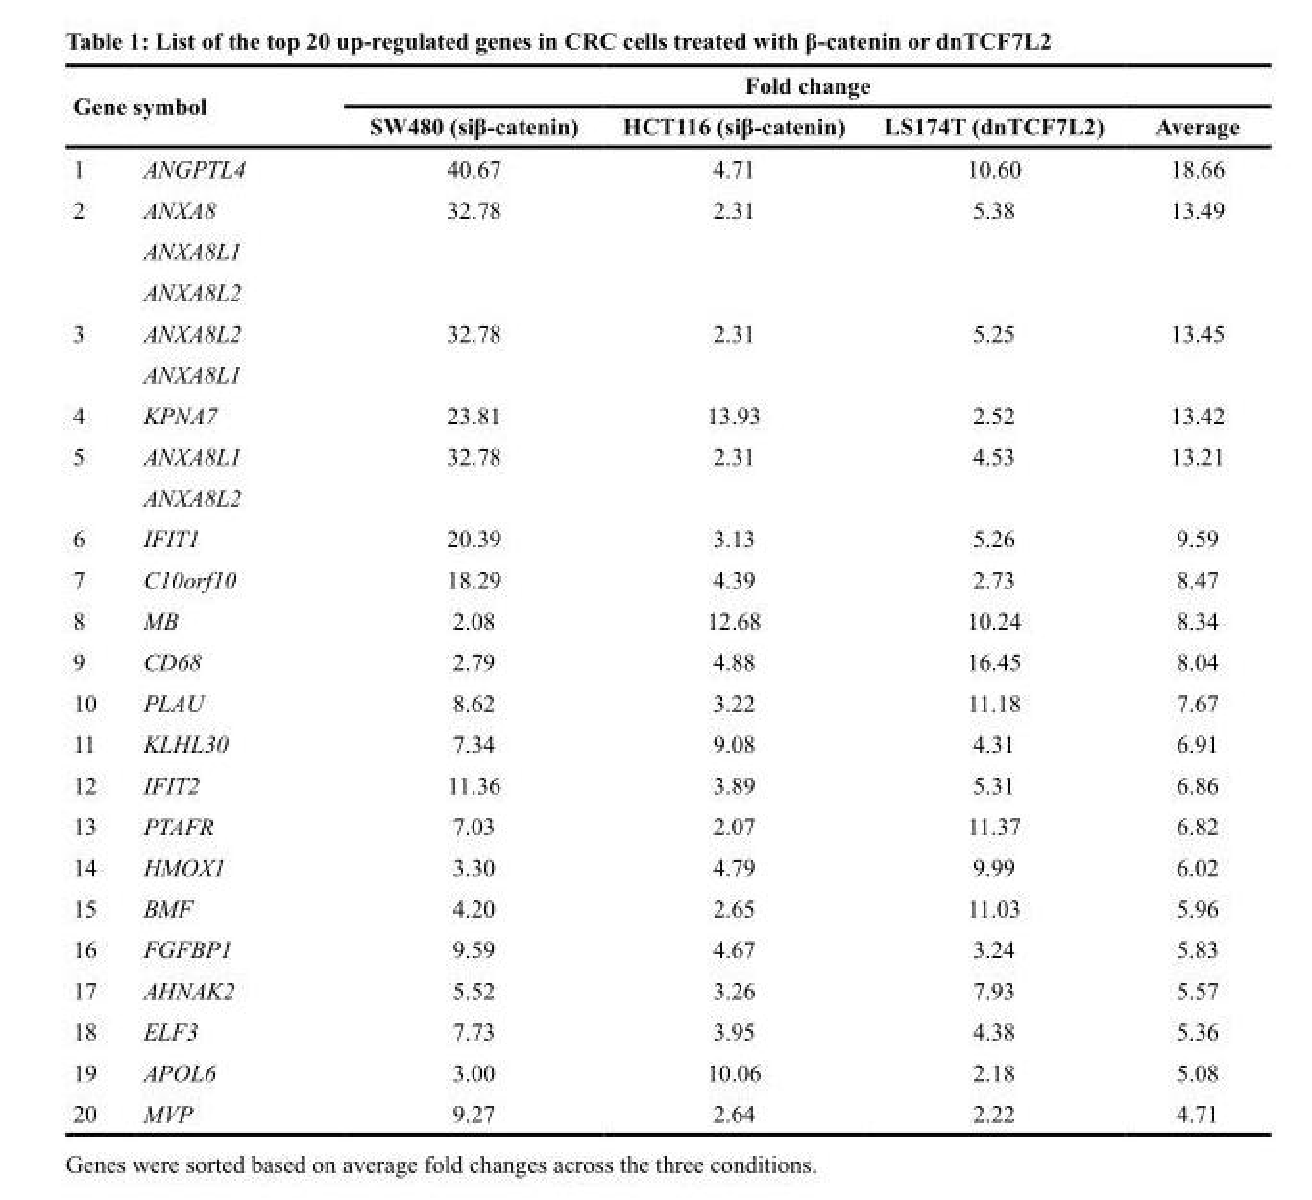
<table><thead><tr><td rowspan="2" colspan="2">Gene symbol</td><td colspan="4">Fold change</td></tr><tr><td rowspan="2">SW480 (siβ-catenin) 40.67</td><td rowspan="2">HCT116 (siβ-catenin) 4.71</td><td rowspan="2">LS174T (dnTCF7L2) 10.60</td><td rowspan="2">Average 18.66</td></tr><tr><td>1</td><td>ANGPTL4</td></tr></thead><tbody><tr><td rowspan="3">2</td><td>ANXA8</td><td>32.78</td><td>2.31</td><td>5.38</td><td>13.49</td></tr><tr><td>ANXA8L1</td><td></td><td></td><td></td><td></td></tr><tr><td>ANXA8L2</td><td></td><td></td><td></td><td></td></tr><tr><td rowspan="2">3</td><td>ANXA8L2</td><td>32.78</td><td>2.31</td><td>5.25</td><td>13.45</td></tr><tr><td>ANXA8L1</td><td></td><td></td><td></td><td></td></tr><tr><td>4</td><td>KPNA7</td><td>23.81</td><td>13.93</td><td>2.52</td><td>13.42</td></tr><tr><td rowspan="2">5</td><td>ANXA8L1</td><td>32.78</td><td>2.31</td><td>4.53</td><td>13.21</td></tr><tr><td>ANXA8L2</td><td></td><td></td><td></td><td></td></tr><tr><td>6</td><td>IFIT1</td><td>20.39</td><td>3.13</td><td>5.26</td><td>9.59</td></tr><tr><td>7</td><td>C10orf10</td><td>18.29</td><td>4.39</td><td>2.73</td><td>8.47</td></tr><tr><td>8</td><td>MB</td><td>2.08</td><td>12.68</td><td>10.24</td><td>8.34</td></tr><tr><td>9</td><td>CD68</td><td>2.79</td><td>4.88</td><td>16.45</td><td>8.04</td></tr><tr><td>10</td><td>PLAU</td><td>8.62</td><td>3.22</td><td>11.18</td><td>7.67</td></tr><tr><td>11</td><td>KLHL30</td><td>7.34</td><td>9.08</td><td>4.31</td><td>6.91</td></tr><tr><td>12</td><td>IFIT2</td><td>11.36</td><td>3.89</td><td>5.31</td><td>6.86</td></tr><tr><td>13</td><td>PTAFR</td><td>7.03</td><td>2.07</td><td>11.37</td><td>6.82</td></tr><tr><td>14</td><td>HMOX1</td><td>3.30</td><td>4.79</td><td>9.99</td><td>6.02</td></tr><tr><td>15</td><td>BMF</td><td>4.20</td><td>2.65</td><td>11.03</td><td>5.96</td></tr><tr><td>16</td><td>FGFBP1</td><td>9.59</td><td>4.67</td><td>3.24</td><td>5.83</td></tr><tr><td>17</td><td>AHNAK2</td><td>5.52</td><td>3.26</td><td>7.93</td><td>5.57</td></tr><tr><td>18</td><td>ELF3</td><td>7.73</td><td>3.95</td><td>4.38</td><td>5.36</td></tr><tr><td>19</td><td>APOL6</td><td>3.00</td><td>10.06</td><td>2.18</td><td>5.08</td></tr><tr><td>20</td><td>MVP</td><td>9.27</td><td>2.64</td><td>2.22</td><td>4.71</td></tr></tbody></table>